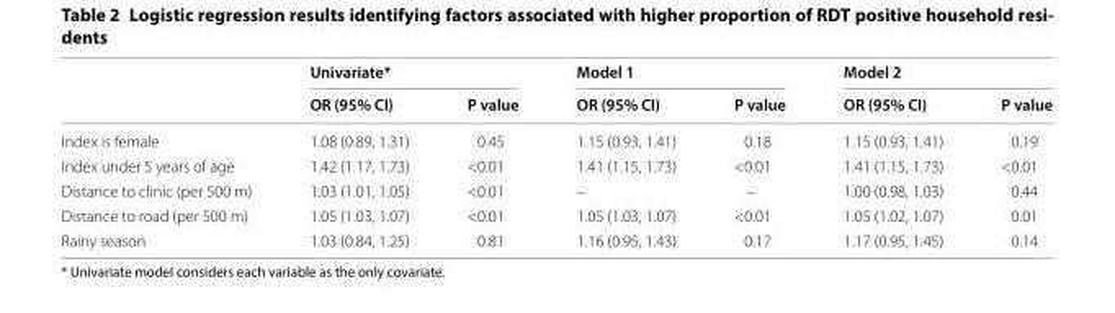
<table><thead><tr><td rowspan="2"></td><td colspan="2">Univariate*</td><td colspan="2">Model 1</td><td colspan="2">Model 2</td></tr><tr><td>OR (95% CI)</td><td>P value</td><td>OR (95% CI)</td><td>P value</td><td>OR (95% CI)</td><td>P value</td></tr></thead><tbody><tr><td>Index is female</td><td>1.08 (0.89, 1.31)</td><td>0.45</td><td>1.15 (0.93, 1.41)</td><td>0.18</td><td>1.15 (0.93, 1.41)</td><td>0.19</td></tr><tr><td>Index under 5 years of age</td><td>1.42 (1.17, 1.73)</td><td>&lt;0.01</td><td>1.41 (1.15, 1.73)</td><td>&lt;0.01</td><td>1.41 (1.15, 1.73)</td><td>&lt;0.01</td></tr><tr><td>Distance to clinic (per 500 m)</td><td>1.03 (1.01, 1.05)</td><td>&lt;0.01</td><td>–</td><td>–</td><td>1.00 (0.98, 1.03)</td><td>0.44</td></tr><tr><td>Distance to road (per 500 m)</td><td>1.05 (1.03, 1.07)</td><td>&lt;0.01</td><td>1.05 (1.03, 1.07)</td><td>&lt;0.01</td><td>1.05 (1.02, 1.07)</td><td>0.01</td></tr><tr><td>Rainy season</td><td>1.03 (0.84, 1.25)</td><td>0.81</td><td>1.16 (0.95, 1.43)</td><td>0.17</td><td>1.17 (0.95, 1.45)</td><td>0.14</td></tr></tbody></table>